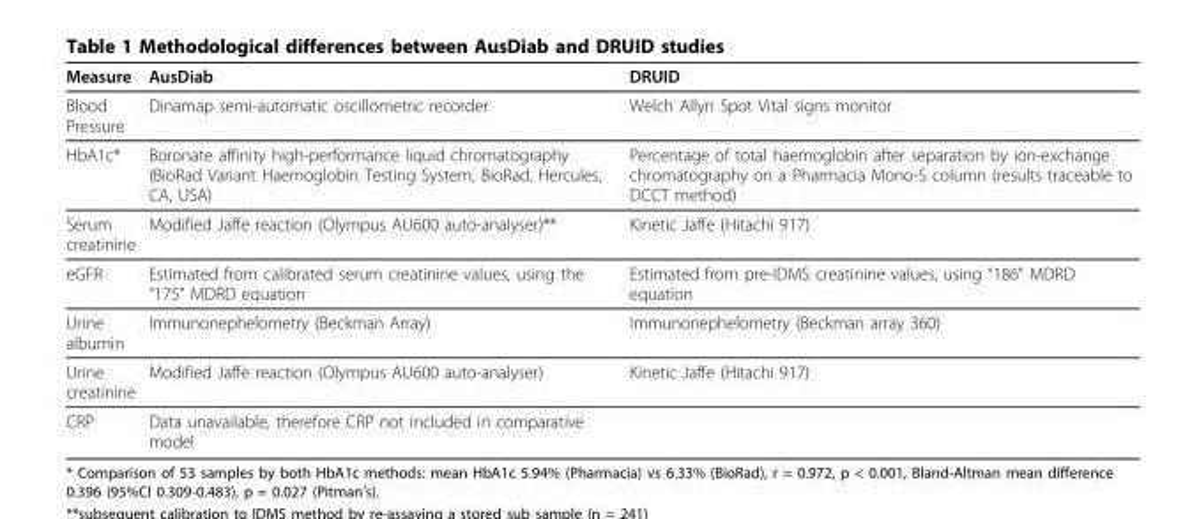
<table><thead><tr><td>Measure</td><td>AusDiab</td><td>DRUID</td></tr></thead><tbody><tr><td>Blood Pressure</td><td>Dinamap semi-automatic oscillometric recorder</td><td>Welch Allyn Spot Vital signs monitor</td></tr><tr><td>HbA1c*</td><td>Boronate affinity high-performance liquid chromatography (BioRad Variant Haemoglobin Testing System, BioRad, Hercules, CA, USA)</td><td>Percentage of total haemoglobin after separation by ion-exchange chromatography on a Pharmacia Mono-S column (results traceable to DCCT method)</td></tr><tr><td>Serum creatinine</td><td>Modified Jaffe reaction (Olympus AU600 auto-analyser)**</td><td>Kinetic Jaffe (Hitachi 917)</td></tr><tr><td>eGFR</td><td>Estimated from calibrated serum creatinine values, using the “175” MDRD equation</td><td>Estimated from pre-IDMS creatinine values, using “186” MDRD equation</td></tr><tr><td>Urine albumin</td><td>Immunonephelometry (Beckman Array)</td><td>Immunonephelometry (Beckman array 360)</td></tr><tr><td>Urine creatinine</td><td>Modified Jaffe reaction (Olympus AU600 auto-analyser)</td><td>Kinetic Jaffe (Hitachi 917)</td></tr><tr><td>CRP</td><td>Data unavailable, therefore CRP not included in comparative model</td><td></td></tr></tbody></table>